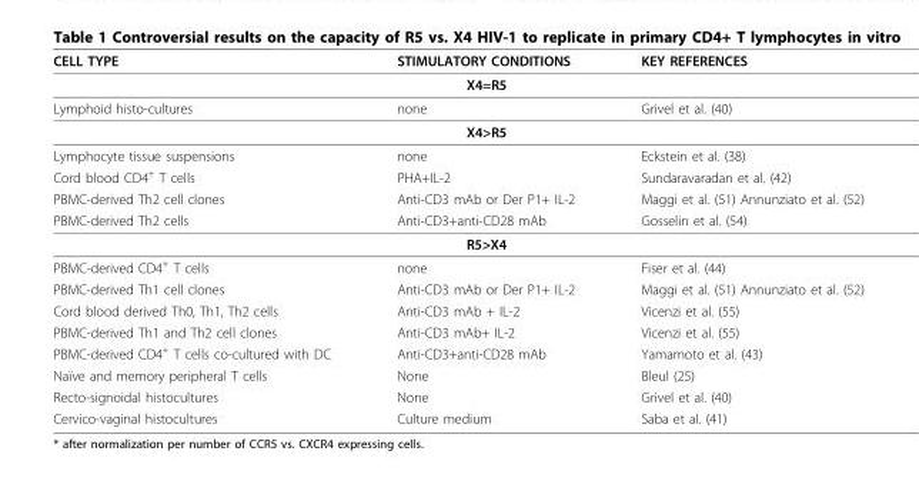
<table><thead><tr><td>CELL TYPE</td><td>STIMULATORY CONDITIONS</td><td>KEY REFERENCES</td></tr></thead><tbody><tr><td colspan="3">X4=R5</td></tr><tr><td>Lymphoid histo-cultures</td><td>none</td><td>Grivel et al. (40)</td></tr><tr><td colspan="3">X4&gt;R5</td></tr><tr><td>Lymphocyte tissue suspensions</td><td>none</td><td>Eckstein et al. (38)</td></tr><tr><td>Cord blood CD4<sup>+</sup> T cells</td><td>PHA+IL-2</td><td>Sundaravaradan et al. (42)</td></tr><tr><td>PBMC-derived Th2 cell clones</td><td>Anti-CD3 mAb or Der P1+ IL-2</td><td>Maggi et al. (51) Annunziato et al. (52)</td></tr><tr><td>PBMC-derived Th2 cells</td><td>Anti-CD3+anti-CD28 mAb</td><td>Gosselin et al. (54)</td></tr><tr><td colspan="3">R5&gt;X4</td></tr><tr><td>PBMC-derived CD4<sup>+</sup> T cells</td><td>none</td><td>Fiser et al. (44)</td></tr><tr><td>PBMC-derived Th1 cell clones</td><td>Anti-CD3 mAb or Der P1+ IL-2</td><td>Maggi et al. (51) Annunziato et al. (52)</td></tr><tr><td>Cord blood derived Th0, Th1, Th2 cells</td><td>Anti-CD3 mAb + IL-2</td><td>Vicenzi et al. (55)</td></tr><tr><td>PBMC-derived Th1 and Th2 cell clones</td><td>Anti-CD3 mAb+ IL-2</td><td>Vicenzi et al. (55)</td></tr><tr><td>PBMC-derived CD4<sup>+</sup> T cells co-cultured with DC</td><td>Anti-CD3+anti-CD28 mAb</td><td>Yamamoto et al. (43)</td></tr><tr><td>Naïve and memory peripheral T cells</td><td>None</td><td>Bleul (25)</td></tr><tr><td>Recto-signoidal histocultures</td><td>None</td><td>Grivel et al. (40)</td></tr><tr><td>Cervico-vaginal histocultures</td><td>Culture medium</td><td>Saba et al. (41)</td></tr></tbody></table>